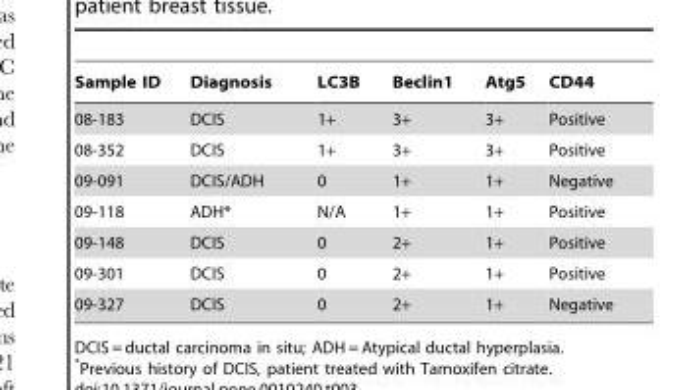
<table><thead><tr><td>Sample ID</td><td>Diagnosis</td><td>LC3B</td><td>Beclin1</td><td>Atg5</td><td>CD44</td></tr></thead><tbody><tr><td>08-183</td><td>DCIS</td><td>1+</td><td>3+</td><td>3+</td><td>Positive</td></tr><tr><td>08-352</td><td>DCIS</td><td>1+</td><td>3+</td><td>3+</td><td>Positive</td></tr><tr><td>09-091</td><td>DCIS/ADH</td><td>0</td><td>1+</td><td>1+</td><td>Negative</td></tr><tr><td>09-118</td><td>ADH*</td><td>N/A</td><td>1+</td><td>1+</td><td>Positive</td></tr><tr><td>09-148</td><td>DCIS</td><td>0</td><td>2+</td><td>1+</td><td>Positive</td></tr><tr><td>09-301</td><td>DCIS</td><td>0</td><td>2+</td><td>1+</td><td>Positive</td></tr><tr><td>09-327</td><td>DCIS</td><td>0</td><td>2+</td><td>1+</td><td>Negative</td></tr></tbody></table>